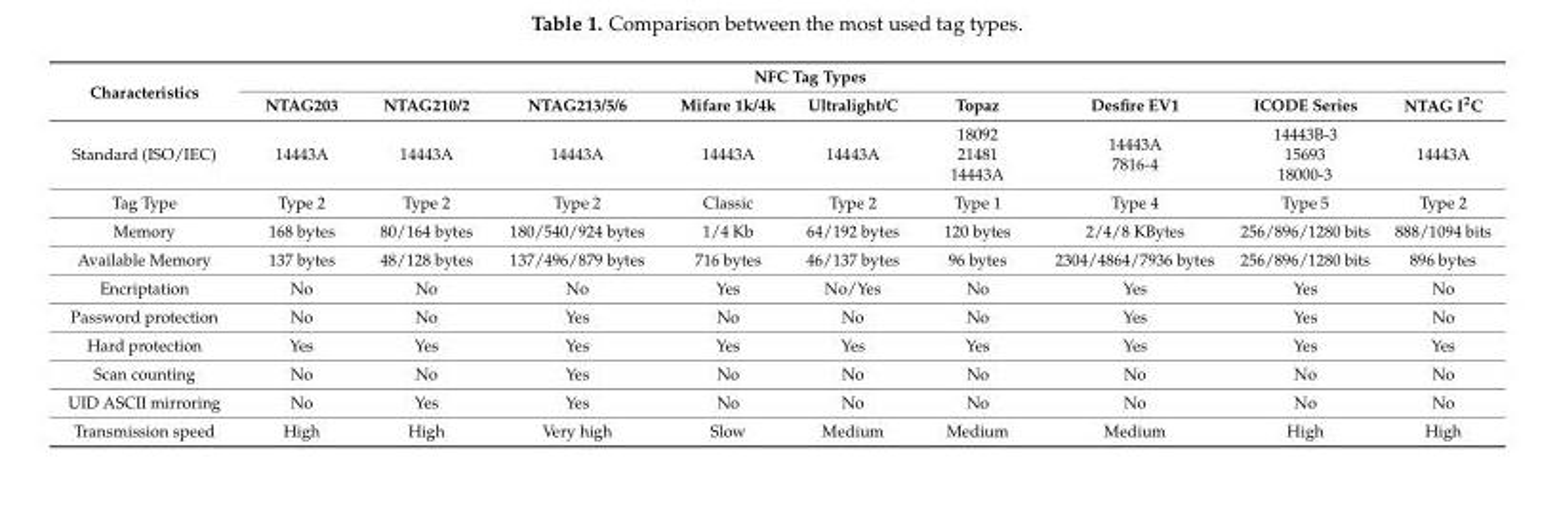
<table><thead><tr><td rowspan="2">Characteristics</td><td colspan="8">NFC Tag Types</td><td rowspan="2">NTAG I<sup>2</sup>C</td></tr><tr><td>NTAG203</td><td>NTAG210/2</td><td>NTAG213/5/6</td><td>Mifare 1k/4k</td><td>Ultralight/C</td><td>Topaz</td><td>Desfire EV1</td><td>ICODE Series</td></tr></thead><tbody><tr><td>Standard (ISO/IEC)</td><td>14443A</td><td>14443A</td><td>14443A</td><td>14443A</td><td>14443A</td><td>18092 21481 14443A</td><td>14443A 7816-4</td><td>14443B-3 15693 18000-3</td><td>14443A</td></tr><tr><td>Tag Type</td><td>Type 2</td><td>Type 2</td><td>Type 2</td><td>Classic</td><td>Type 2</td><td>Type 1</td><td>Type 4</td><td>Type 5</td><td>Type 2</td></tr><tr><td>Memory</td><td>168 bytes</td><td>80/164 bytes</td><td>180/540/924 bytes</td><td>1/4 Kb</td><td>64/192 bytes</td><td>120 bytes</td><td>2/4/8 KBytes</td><td>256/896/1280 bits</td><td>888/1094 bits</td></tr><tr><td>Available Memory</td><td>137 bytes</td><td>48/128 bytes</td><td>137/496/879 bytes</td><td>716 bytes</td><td>46/137 bytes</td><td>96 bytes</td><td>2304/4864/7936 bytes</td><td>256/896/1280 bits</td><td>896 bytes</td></tr><tr><td>Encriptation</td><td>No</td><td>No</td><td>No</td><td>Yes</td><td>No/Yes</td><td>No</td><td>Yes</td><td>Yes</td><td>No</td></tr><tr><td>Password protection</td><td>No</td><td>No</td><td>Yes</td><td>No</td><td>No</td><td>No</td><td>Yes</td><td>Yes</td><td>No</td></tr><tr><td>Hard protection</td><td>Yes</td><td>Yes</td><td>Yes</td><td>Yes</td><td>Yes</td><td>Yes</td><td>Yes</td><td>Yes</td><td>Yes</td></tr><tr><td>Scan counting</td><td>No</td><td>No</td><td>Yes</td><td>No</td><td>No</td><td>No</td><td>No</td><td>No</td><td>No</td></tr><tr><td>UID ASCII mirroring</td><td>No</td><td>Yes</td><td>Yes</td><td>No</td><td>No</td><td>No</td><td>No</td><td>No</td><td>No</td></tr><tr><td>Transmission speed</td><td>High</td><td>High</td><td>Very high</td><td>Slow</td><td>Medium</td><td>Medium</td><td>Medium</td><td>High</td><td>High</td></tr></tbody></table>